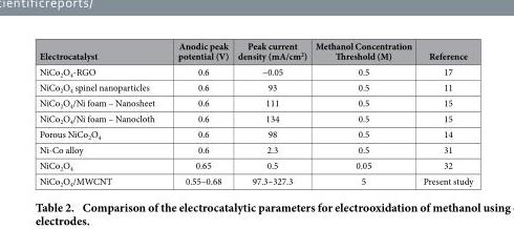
<table><thead><tr><td>Electrocatalyst</td><td>Anodic peak potential (V)</td><td>Peak current density (mA/cm<sup>2</sup>)</td><td>Methanol Concentration Threshold (M)</td><td>Reference</td></tr></thead><tbody><tr><td>NiCo<sub>2</sub>O<sub>4</sub>-RGO</td><td>0.6</td><td>~0.05</td><td>0.5</td><td>17</td></tr><tr><td>NiCo<sub>2</sub>O<sub>4</sub> spinel nanoparticles</td><td>0.6</td><td>93</td><td>0.5</td><td>11</td></tr><tr><td>NiCo<sub>2</sub>O<sub>4</sub>/Ni foam – Nanosheet</td><td>0.6</td><td>111</td><td>0.5</td><td>15</td></tr><tr><td>NiCo<sub>2</sub>O<sub>4</sub>/Ni foam – Nanocloth</td><td>0.6</td><td>134</td><td>0.5</td><td>15</td></tr><tr><td>Porous NiCo<sub>2</sub>O<sub>4</sub></td><td>0.6</td><td>98</td><td>0.5</td><td>14</td></tr><tr><td>Ni-Co alloy</td><td>0.6</td><td>2.3</td><td>0.5</td><td>31</td></tr><tr><td>NiCo<sub>2</sub>O<sub>4</sub></td><td>0.65</td><td>0.5</td><td>0.05</td><td>32</td></tr><tr><td>NiCo<sub>2</sub>O<sub>4</sub>/MWCNT</td><td>0.55–0.68</td><td>97.3–327.3</td><td>5</td><td>Present study</td></tr></tbody></table>